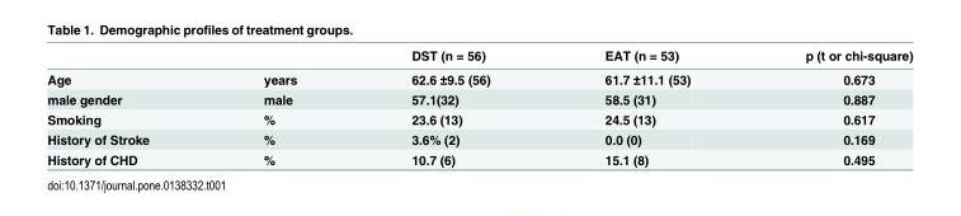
<table><thead><tr><td></td><td></td><td>DST (n = 56)</td><td>EAT (n = 53)</td><td>p (t or chi-square)</td></tr></thead><tbody><tr><td>Age</td><td>years</td><td>62.6 ±9.5 (56)</td><td>61.7 ±11.1 (53)</td><td>0.673</td></tr><tr><td>male gender</td><td>male</td><td>57.1(32)</td><td>58.5 (31)</td><td>0.887</td></tr><tr><td>Smoking</td><td>%</td><td>23.6 (13)</td><td>24.5 (13)</td><td>0.617</td></tr><tr><td>History of Stroke</td><td>%</td><td>3.6% (2)</td><td>0.0 (0)</td><td>0.169</td></tr><tr><td>History of CHD</td><td>%</td><td>10.7 (6)</td><td>15.1 (8)</td><td>0.495</td></tr></tbody></table>